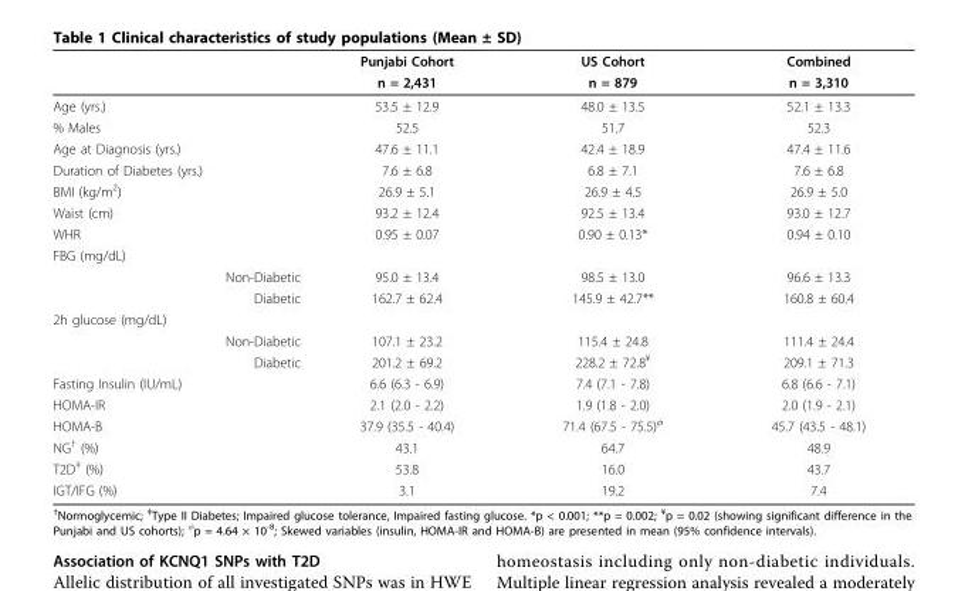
<table><thead><tr><td rowspan="2"></td><td rowspan="2">Punjabi Cohort n = 2,431</td><td rowspan="2">US Cohort n = 879</td><td rowspan="2">Combined n = 3,310</td></tr><tr></tr></thead><tbody><tr><td>Age (yrs.)</td><td>53.5 ± 12.9</td><td>48.0 ± 13.5</td><td>52.1 ± 13.3</td></tr><tr><td>% Males</td><td>52.5</td><td>51.7</td><td>52.3</td></tr><tr><td>Age at Diagnosis (yrs.)</td><td>47.6 ± 11.1</td><td>42.4 ± 18.9</td><td>47.4 ± 11.6</td></tr><tr><td>Duration of Diabetes (yrs.)</td><td>7.6 ± 6.8</td><td>6.8 ± 7.1</td><td>7.6 ± 6.8</td></tr><tr><td>BMI (kg/m<sup>2</sup>)</td><td>26.9 ± 5.1</td><td>26.9 ± 4.5</td><td>26.9 ± 5.0</td></tr><tr><td>Waist (cm)</td><td>93.2 ± 12.4</td><td>92.5 ± 13.4</td><td>93.0 ± 12.7</td></tr><tr><td>WHR</td><td>0.95 ± 0.07</td><td>0.90 ± 0.13*</td><td>0.94 ± 0.10</td></tr><tr><td colspan="4">FBG (mg/dL)</td></tr><tr><td>Non-Diabetic</td><td>95.0 ± 13.4</td><td>98.5 ± 13.0</td><td>96.6 ± 13.3</td></tr><tr><td>Diabetic</td><td>162.7 ± 62.4</td><td>145.9 ± 42.7**</td><td>160.8 ± 60.4</td></tr><tr><td colspan="4">2h glucose (mg/dL)</td></tr><tr><td>Non-Diabetic</td><td>107.1 ± 23.2</td><td>115.4 ± 24.8</td><td>111.4 ± 24.4</td></tr><tr><td>Diabetic</td><td>201.2 ± 69.2</td><td>228.2 ± 72.8<sup>¥</sup></td><td>209.1 ± 71.3</td></tr><tr><td>Fasting Insulin (IU/mL)</td><td>6.6 (6.3 - 6.9)</td><td>7.4 (7.1 - 7.8)</td><td>6.8 (6.6 - 7.1)</td></tr><tr><td>HOMA-IR</td><td>2.1 (2.0 - 2.2)</td><td>1.9 (1.8 - 2.0)</td><td>2.0 (1.9 - 2.1)</td></tr><tr><td>HOMA-B</td><td>37.9 (35.5 - 40.4)</td><td>71.4 (67.5 - 75.5)<sup>φ</sup></td><td>45.7 (43.5 - 48.1)</td></tr><tr><td>NG<sup>†</sup> (%)</td><td>43.1</td><td>64.7</td><td>48.9</td></tr><tr><td>T2D<sup>‡</sup> (%)</td><td>53.8</td><td>16.0</td><td>43.7</td></tr><tr><td>IGT/IFG (%)</td><td>3.1</td><td>19.2</td><td>7.4</td></tr><tr><td colspan="4"><sup>†</sup>Normoglycemic; <sup>‡</sup>Type II Diabetes; Impaired glucose tolerance, Impaired fasting glucose. *p &lt; 0.001; **p = 0.002; <sup>¥</sup>p = 0.02 (showing significant difference in the Punjabi and US cohorts); <sup>φ</sup>p = 4.64 × 10<sup>-8</sup>; Skewed variables (insulin, HOMA-IR and HOMA-B) are presented in mean (95% confidence intervals).</td></tr></tbody></table>